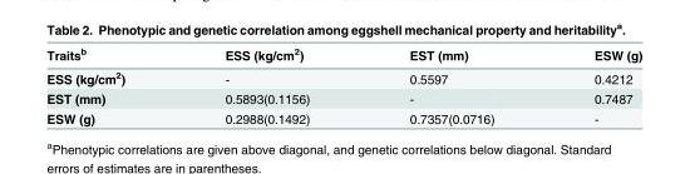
<table><thead><tr><td>Traits<sup>b</sup></td><td>ESS (kg/cm<sup>2</sup>)</td><td>EST (mm)</td><td>ESW (g)</td></tr></thead><tbody><tr><td>ESS (kg/cm<sup>2</sup>)</td><td>-</td><td>0.5597</td><td>0.4212</td></tr><tr><td>EST (mm)</td><td>0.5893(0.1156)</td><td>-</td><td>0.7487</td></tr><tr><td>ESW (g)</td><td>0.2988(0.1492)</td><td>0.7357(0.0716)</td><td>-</td></tr></tbody></table>